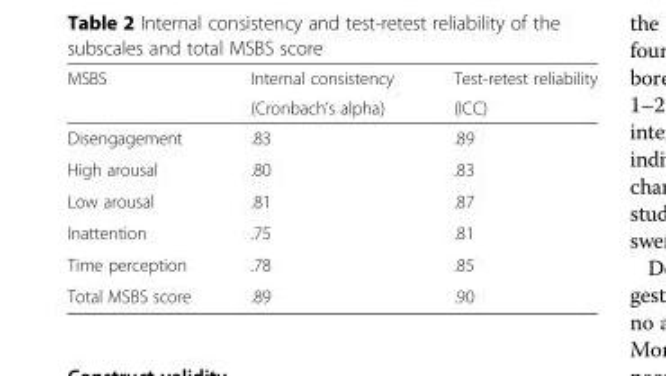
<table><thead><tr><td rowspan="2">MSBS</td><td rowspan="2">Internal consistency (Cronbach’s alpha)</td><td rowspan="2">Test-retest reliability (ICC)</td></tr><tr></tr></thead><tbody><tr><td>Disengagement</td><td>.83</td><td>.89</td></tr><tr><td>High arousal</td><td>.80</td><td>.83</td></tr><tr><td>Low arousal</td><td>.81</td><td>.87</td></tr><tr><td>Inattention</td><td>.75</td><td>.81</td></tr><tr><td>Time perception</td><td>.78</td><td>.85</td></tr><tr><td>Total MSBS score</td><td>.89</td><td>.90</td></tr></tbody></table>